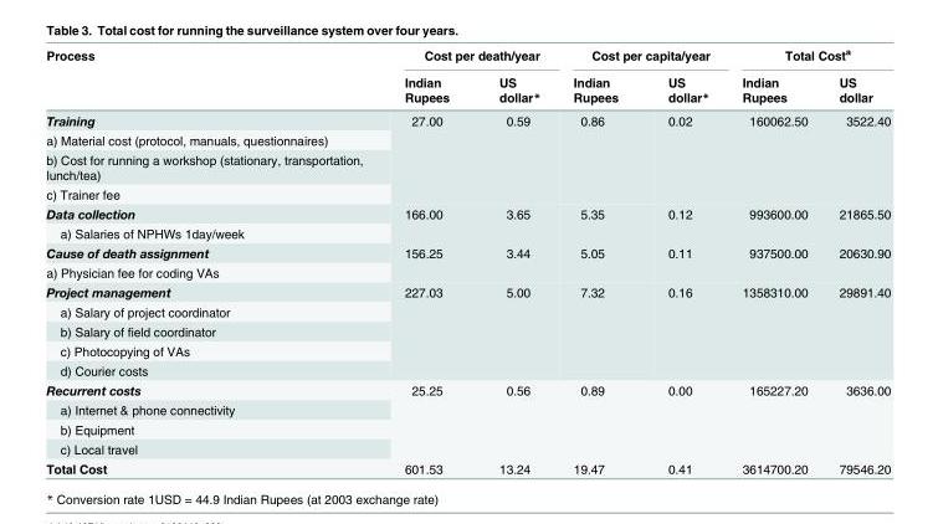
<table><thead><tr><td rowspan="2">Process</td><td colspan="2">Cost per death/year</td><td colspan="2">Cost per capita/year</td><td colspan="2">Total Cost<sup>a</sup></td></tr><tr><td>Indian Rupees</td><td>US dollar*</td><td>Indian Rupees</td><td>US dollar*</td><td>Indian Rupees</td><td>US dollar</td></tr></thead><tbody><tr><td>Training</td><td rowspan="4">27.00</td><td rowspan="4">0.59</td><td rowspan="4">0.86</td><td rowspan="4">0.02</td><td rowspan="4">160062.50</td><td rowspan="4">3522.40</td></tr><tr><td>a) Material cost (protocol, manuals, questionnaires)</td></tr><tr><td>b) Cost for running a workshop (stationary, transportation, lunch/tea)</td></tr><tr><td>c) Trainer fee</td></tr><tr><td>Data collection</td><td rowspan="2">166.00</td><td rowspan="2">3.65</td><td rowspan="2">5.35</td><td rowspan="2">0.12</td><td rowspan="2">993600.00</td><td rowspan="2">21865.50</td></tr><tr><td>a) Salaries of NPHWs 1day/week</td></tr><tr><td>Cause of death assignment</td><td rowspan="2">156.25</td><td rowspan="2">3.44</td><td rowspan="2">5.05</td><td rowspan="2">0.11</td><td rowspan="2">937500.00</td><td rowspan="2">20630.90</td></tr><tr><td>a) Physician fee for coding VAs</td></tr><tr><td>Project management</td><td rowspan="5">227.03</td><td rowspan="5">5.00</td><td rowspan="5">7.32</td><td rowspan="5">0.16</td><td rowspan="5">1358310.00</td><td rowspan="5">29891.40</td></tr><tr><td>a) Salary of project coordinator</td></tr><tr><td>b) Salary of field coordinator</td></tr><tr><td>c) Photocopying of VAs</td></tr><tr><td>d) Courier costs</td></tr><tr><td>Recurrent costs</td><td rowspan="4">25.25</td><td rowspan="4">0.56</td><td rowspan="4">0.89</td><td rowspan="4">0.00</td><td rowspan="4">165227.20</td><td rowspan="4">3636.00</td></tr><tr><td>a) Internet &amp; phone connectivity</td></tr><tr><td>b) Equipment</td></tr><tr><td>c) Local travel</td></tr><tr><td>Total Cost</td><td>601.53</td><td>13.24</td><td>19.47</td><td>0.41</td><td>3614700.20</td><td>79546.20</td></tr></tbody></table>